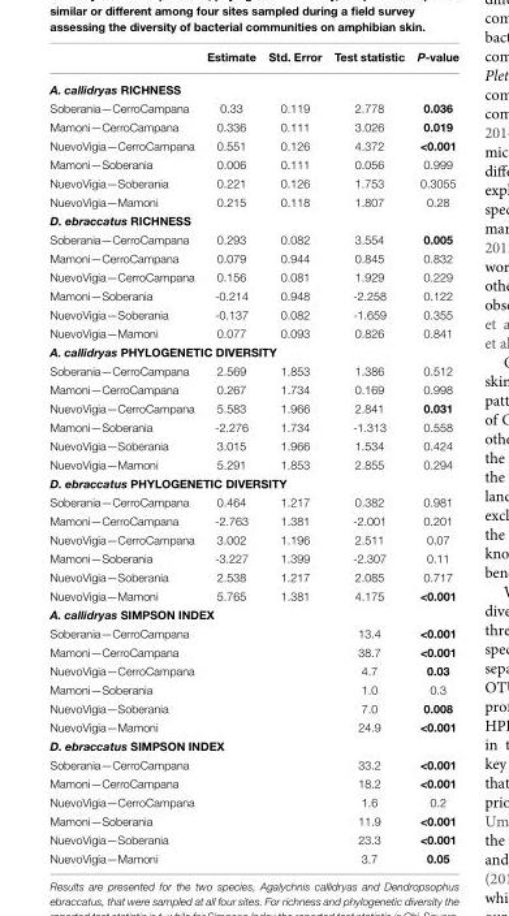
<table><thead><tr><td></td><td>Estimate</td><td>Std. Error</td><td>Test statistic</td><td>P-value</td></tr></thead><tbody><tr><td colspan="5">A. callidryas RICHNESS</td></tr><tr><td>Soberania—CerroCampana</td><td>0.33</td><td>0.119</td><td>2.778</td><td>0.036</td></tr><tr><td>Mamoni—CerroCampana</td><td>0.336</td><td>0.111</td><td>3.026</td><td>0.019</td></tr><tr><td>NuevoVigia—CerroCampana</td><td>0.551</td><td>0.126</td><td>4.372</td><td>&lt;0.001</td></tr><tr><td>Mamoni—Soberania</td><td>0.006</td><td>0.111</td><td>0.056</td><td>0.999</td></tr><tr><td>NuevoVigia—Soberania</td><td>0.221</td><td>0.126</td><td>1.753</td><td>0.3055</td></tr><tr><td>NuevoVigia—Mamoni</td><td>0.215</td><td>0.118</td><td>1.807</td><td>0.28</td></tr><tr><td colspan="5">D. ebraccatus RICHNESS</td></tr><tr><td>Soberania—CerroCampana</td><td>0.293</td><td>0.082</td><td>3.554</td><td>0.005</td></tr><tr><td>Mamoni—CerroCampana</td><td>0.079</td><td>0.944</td><td>0.845</td><td>0.832</td></tr><tr><td>NuevoVigia—CerroCampana</td><td>0.156</td><td>0.081</td><td>1.929</td><td>0.229</td></tr><tr><td>Mamoni—Soberania</td><td>-0.214</td><td>0.948</td><td>-2.258</td><td>0.122</td></tr><tr><td>NuevoVigia—Soberania</td><td>-0.137</td><td>0.082</td><td>-1.659</td><td>0.355</td></tr><tr><td>NuevoVigia—Mamoni</td><td>0.077</td><td>0.093</td><td>0.826</td><td>0.841</td></tr><tr><td colspan="5">A. callidryas PHYLOGENETIC DIVERSITY</td></tr><tr><td>Soberania—CerroCampana</td><td>2.569</td><td>1.853</td><td>1.386</td><td>0.512</td></tr><tr><td>Mamoni—CerroCampana</td><td>0.267</td><td>1.734</td><td>0.169</td><td>0.998</td></tr><tr><td>NuevoVigia—CerroCampana</td><td>5.583</td><td>1.966</td><td>2.841</td><td>0.031</td></tr><tr><td>Mamoni—Soberania</td><td>-2.276</td><td>1.734</td><td>-1.313</td><td>0.558</td></tr><tr><td>NuevoVigia—Soberania</td><td>3.015</td><td>1.966</td><td>1.534</td><td>0.424</td></tr><tr><td>NuevoVigia—Mamoni</td><td>5.291</td><td>1.853</td><td>2.855</td><td>0.294</td></tr><tr><td colspan="5">D. ebraccatus PHYLOGENETIC DIVERSITY</td></tr><tr><td>Soberania—CerroCampana</td><td>0.464</td><td>1.217</td><td>0.382</td><td>0.981</td></tr><tr><td>Mamoni—CerroCampana</td><td>-2.763</td><td>1.381</td><td>-2.001</td><td>0.201</td></tr><tr><td>NuevoVigia—CerroCampana</td><td>3.002</td><td>1.196</td><td>2.511</td><td>0.07</td></tr><tr><td>Mamoni—Soberania</td><td>-3.227</td><td>1.399</td><td>-2.307</td><td>0.11</td></tr><tr><td>NuevoVigia—Soberania</td><td>2.538</td><td>1.217</td><td>2.085</td><td>0.717</td></tr><tr><td>NuevoVigia—Mamoni</td><td>5.765</td><td>1.381</td><td>4.175</td><td>&lt;0.001</td></tr><tr><td colspan="5">A. callidryas SIMPSON INDEX</td></tr><tr><td>Soberania—CerroCampana</td><td></td><td></td><td>13.4</td><td>&lt;0.001</td></tr><tr><td>Mamoni—CerroCampana</td><td></td><td></td><td>38.7</td><td>&lt;0.001</td></tr><tr><td>NuevoVigia—CerroCampana</td><td></td><td></td><td>4.7</td><td>0.03</td></tr><tr><td>Mamoni—Soberania</td><td></td><td></td><td>1.0</td><td>0.3</td></tr><tr><td>NuevoVigia—Soberania</td><td></td><td></td><td>7.0</td><td>0.008</td></tr><tr><td>NuevoVigia—Mamoni</td><td></td><td></td><td>24.9</td><td>&lt;0.001</td></tr><tr><td colspan="5">D. ebraccatus SIMPSON INDEX</td></tr><tr><td>Soberania—CerroCampana</td><td></td><td></td><td>33.2</td><td>&lt;0.001</td></tr><tr><td>Mamoni—CerroCampana</td><td></td><td></td><td>18.2</td><td>&lt;0.001</td></tr><tr><td>NuevoVigia—CerroCampana</td><td></td><td></td><td>1.6</td><td>0.2</td></tr><tr><td>Mamoni—Soberania</td><td></td><td></td><td>11.9</td><td>&lt;0.001</td></tr><tr><td>NuevoVigia—Soberania</td><td></td><td></td><td>23.3</td><td>&lt;0.001</td></tr><tr><td>NuevoVigia—Mamoni</td><td></td><td></td><td>3.7</td><td>0.05</td></tr></tbody></table>